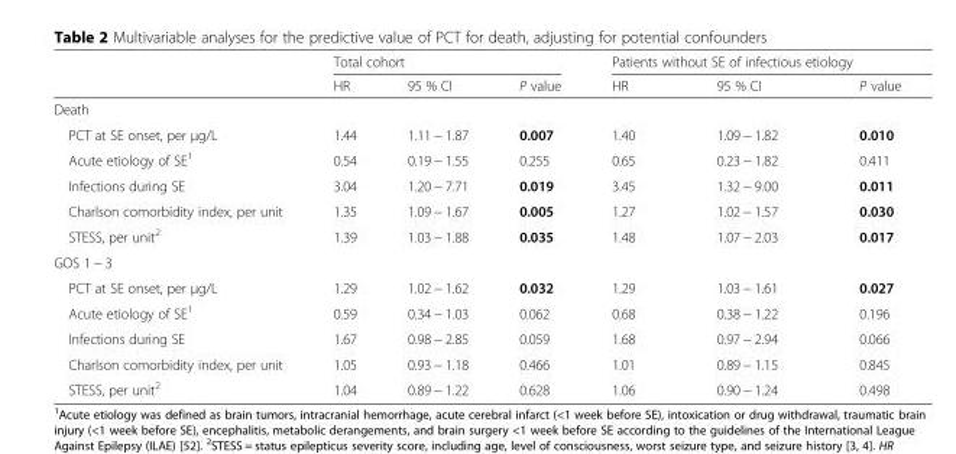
<table><thead><tr><td rowspan="2"></td><td colspan="3">Total cohort</td><td colspan="3">Patients without SE of infectious etiology</td></tr><tr><td>HR</td><td>95 % CI</td><td>P value</td><td>HR</td><td>95 % CI</td><td>P value</td></tr></thead><tbody><tr><td colspan="7">Death</td></tr><tr><td>PCT at SE onset, per μg/L</td><td>1.44</td><td>1.11 − 1.87</td><td>0.007</td><td>1.40</td><td>1.09 − 1.82</td><td>0.010</td></tr><tr><td>Acute etiology of SE1</td><td>0.54</td><td>0.19 − 1.55</td><td>0.255</td><td>0.65</td><td>0.23 − 1.82</td><td>0.411</td></tr><tr><td>Infections during SE</td><td>3.04</td><td>1.20 − 7.71</td><td>0.019</td><td>3.45</td><td>1.32 − 9.00</td><td>0.011</td></tr><tr><td>Charlson comorbidity index, per unit</td><td>1.35</td><td>1.09 − 1.67</td><td>0.005</td><td>1.27</td><td>1.02 − 1.57</td><td>0.030</td></tr><tr><td>STESS, per unit2</td><td>1.39</td><td>1.03 − 1.88</td><td>0.035</td><td>1.48</td><td>1.07 − 2.03</td><td>0.017</td></tr><tr><td colspan="7">GOS 1 − 3</td></tr><tr><td>PCT at SE onset, per μg/L</td><td>1.29</td><td>1.02 − 1.62</td><td>0.032</td><td>1.29</td><td>1.03 − 1.61</td><td>0.027</td></tr><tr><td>Acute etiology of SE1</td><td>0.59</td><td>0.34 − 1.03</td><td>0.062</td><td>0.68</td><td>0.38 − 1.22</td><td>0.196</td></tr><tr><td>Infections during SE</td><td>1.67</td><td>0.98 − 2.85</td><td>0.059</td><td>1.68</td><td>0.97 − 2.94</td><td>0.066</td></tr><tr><td>Charlson comorbidity index, per unit</td><td>1.05</td><td>0.93 − 1.18</td><td>0.466</td><td>1.01</td><td>0.89 − 1.15</td><td>0.845</td></tr><tr><td>STESS, per unit2</td><td>1.04</td><td>0.89 − 1.22</td><td>0.628</td><td>1.06</td><td>0.90 − 1.24</td><td>0.498</td></tr></tbody></table>